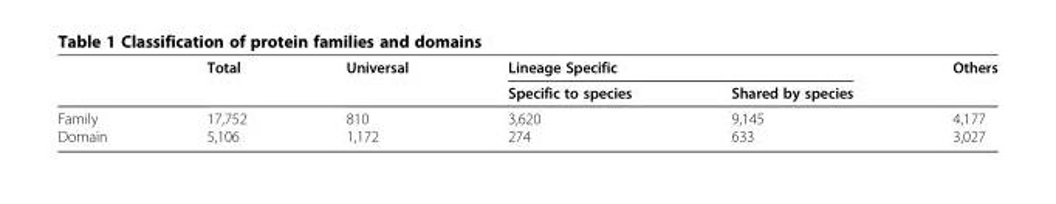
<table><thead><tr><td rowspan="2"></td><td rowspan="2">Total</td><td rowspan="2">Universal</td><td colspan="2">Lineage Specific</td><td rowspan="2">Others</td></tr><tr><td>Specific to species</td><td>Shared by species</td></tr></thead><tbody><tr><td>Family</td><td>17,752</td><td>810</td><td>3,620</td><td>9,145</td><td>4,177</td></tr><tr><td>Domain</td><td>5,106</td><td>1,172</td><td>274</td><td>633</td><td>3,027</td></tr></tbody></table>